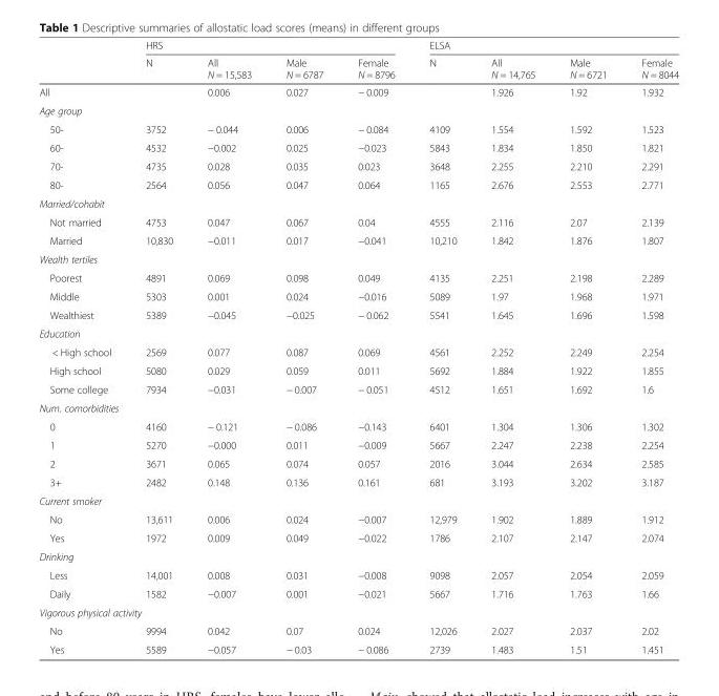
<table><thead><tr><td rowspan="2"></td><td colspan="4">HRS</td><td colspan="4">ELSA</td></tr><tr><td>N</td><td>All N = 15,583</td><td>Male N = 6787</td><td>Female N = 8796</td><td>N</td><td>All N = 14,765</td><td>Male N = 6721</td><td>Female N = 8044</td></tr></thead><tbody><tr><td>All</td><td></td><td>0.006</td><td>0.027</td><td>− 0.009</td><td></td><td>1.926</td><td>1.92</td><td>1.932</td></tr><tr><td colspan="9">Age group</td></tr><tr><td>50-</td><td>3752</td><td>− 0.044</td><td>0.006</td><td>− 0.084</td><td>4109</td><td>1.554</td><td>1.592</td><td>1.523</td></tr><tr><td>60-</td><td>4532</td><td>−0.002</td><td>0.025</td><td>−0.023</td><td>5843</td><td>1.834</td><td>1.850</td><td>1.821</td></tr><tr><td>70-</td><td>4735</td><td>0.028</td><td>0.035</td><td>0.023</td><td>3648</td><td>2.255</td><td>2.210</td><td>2.291</td></tr><tr><td>80-</td><td>2564</td><td>0.056</td><td>0.047</td><td>0.064</td><td>1165</td><td>2.676</td><td>2.553</td><td>2.771</td></tr><tr><td colspan="9">Married/cohabit</td></tr><tr><td>Not married</td><td>4753</td><td>0.047</td><td>0.067</td><td>0.04</td><td>4555</td><td>2.116</td><td>2.07</td><td>2.139</td></tr><tr><td>Married</td><td>10,830</td><td>−0.011</td><td>0.017</td><td>−0.041</td><td>10,210</td><td>1.842</td><td>1.876</td><td>1.807</td></tr><tr><td colspan="9">Wealth tertiles</td></tr><tr><td>Poorest</td><td>4891</td><td>0.069</td><td>0.098</td><td>0.049</td><td>4135</td><td>2.251</td><td>2.198</td><td>2.289</td></tr><tr><td>Middle</td><td>5303</td><td>0.001</td><td>0.024</td><td>−0.016</td><td>5089</td><td>1.97</td><td>1.968</td><td>1.971</td></tr><tr><td>Wealthiest</td><td>5389</td><td>−0.045</td><td>−0.025</td><td>− 0.062</td><td>5541</td><td>1.645</td><td>1.696</td><td>1.598</td></tr><tr><td colspan="9">Education</td></tr><tr><td>&lt; High school</td><td>2569</td><td>0.077</td><td>0.087</td><td>0.069</td><td>4561</td><td>2.252</td><td>2.249</td><td>2.254</td></tr><tr><td>High school</td><td>5080</td><td>0.029</td><td>0.059</td><td>0.011</td><td>5692</td><td>1.884</td><td>1.922</td><td>1.855</td></tr><tr><td>Some college</td><td>7934</td><td>−0.031</td><td>− 0.007</td><td>− 0.051</td><td>4512</td><td>1.651</td><td>1.692</td><td>1.6</td></tr><tr><td colspan="9">Num. comorbidities</td></tr><tr><td>0</td><td>4160</td><td>− 0.121</td><td>− 0.086</td><td>−0.143</td><td>6401</td><td>1.304</td><td>1.306</td><td>1.302</td></tr><tr><td>1</td><td>5270</td><td>−0.000</td><td>0.011</td><td>−0.009</td><td>5667</td><td>2.247</td><td>2.238</td><td>2.254</td></tr><tr><td>2</td><td>3671</td><td>0.065</td><td>0.074</td><td>0.057</td><td>2016</td><td>3.044</td><td>2.634</td><td>2.585</td></tr><tr><td>3+</td><td>2482</td><td>0.148</td><td>0.136</td><td>0.161</td><td>681</td><td>3.193</td><td>3.202</td><td>3.187</td></tr><tr><td colspan="9">Current smoker</td></tr><tr><td>No</td><td>13,611</td><td>0.006</td><td>0.024</td><td>−0.007</td><td>12,979</td><td>1.902</td><td>1.889</td><td>1.912</td></tr><tr><td>Yes</td><td>1972</td><td>0.009</td><td>0.049</td><td>−0.022</td><td>1786</td><td>2.107</td><td>2.147</td><td>2.074</td></tr><tr><td colspan="9">Drinking</td></tr><tr><td>Less</td><td>14,001</td><td>0.008</td><td>0.031</td><td>−0.008</td><td>9098</td><td>2.057</td><td>2.054</td><td>2.059</td></tr><tr><td>Daily</td><td>1582</td><td>−0.007</td><td>0.001</td><td>−0.021</td><td>5667</td><td>1.716</td><td>1.763</td><td>1.66</td></tr><tr><td colspan="9">Vigorous physical activity</td></tr><tr><td>No</td><td>9994</td><td>0.042</td><td>0.07</td><td>0.024</td><td>12,026</td><td>2.027</td><td>2.037</td><td>2.02</td></tr><tr><td>Yes</td><td>5589</td><td>−0.057</td><td>− 0.03</td><td>− 0.086</td><td>2739</td><td>1.483</td><td>1.51</td><td>1.451</td></tr></tbody></table>